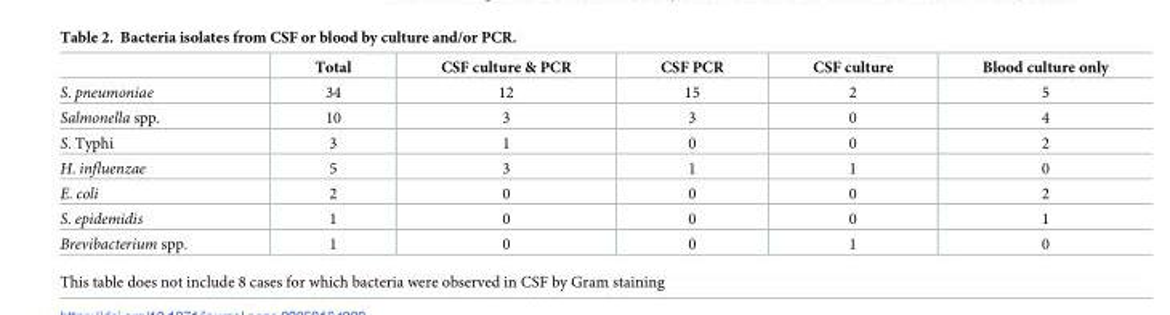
<table><thead><tr><td></td><td>Total</td><td>CSF culture &amp; PCR</td><td>CSF PCR</td><td>CSF culture</td><td>Blood culture only</td></tr></thead><tbody><tr><td>S. pneumoniae</td><td>34</td><td>12</td><td>15</td><td>2</td><td>5</td></tr><tr><td>Salmonella spp.</td><td>10</td><td>3</td><td>3</td><td>0</td><td>4</td></tr><tr><td>S. Typhi</td><td>3</td><td>1</td><td>0</td><td>0</td><td>2</td></tr><tr><td>H. influenzae</td><td>5</td><td>3</td><td>1</td><td>1</td><td>0</td></tr><tr><td>E. coli</td><td>2</td><td>0</td><td>0</td><td>0</td><td>2</td></tr><tr><td>S. epidemidis</td><td>1</td><td>0</td><td>0</td><td>0</td><td>1</td></tr><tr><td>Brevibacterium spp.</td><td>1</td><td>0</td><td>0</td><td>1</td><td>0</td></tr></tbody></table>